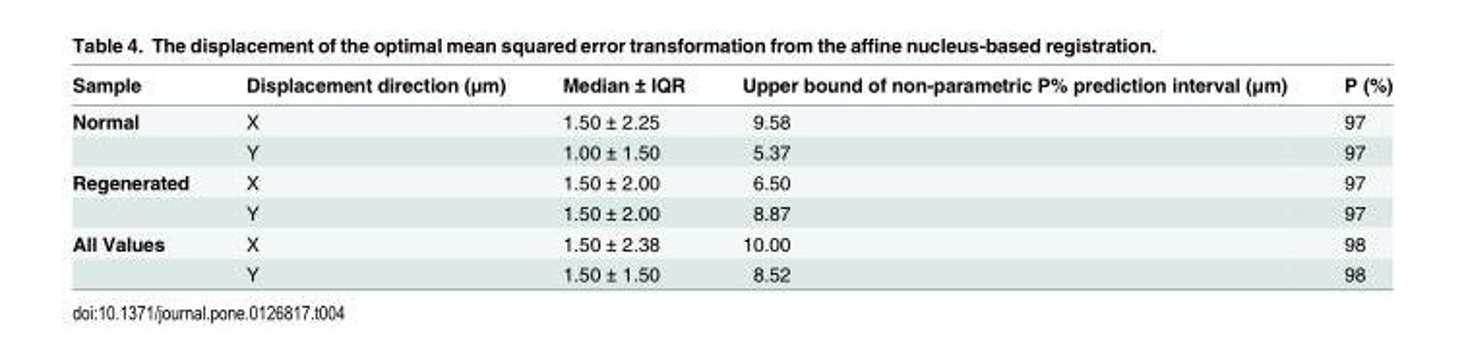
<table><thead><tr><td>Sample</td><td>Displacement direction (μm)</td><td>Median ± IQR</td><td>Upper bound of non-parametric P% prediction interval (μm)</td><td>P (%)</td></tr></thead><tbody><tr><td rowspan="2">Normal</td><td>X</td><td>1.50 ± 2.25</td><td>9.58</td><td>97</td></tr><tr><td>Y</td><td>1.00 ± 1.50</td><td>5.37</td><td>97</td></tr><tr><td rowspan="2">Regenerated</td><td>X</td><td>1.50 ± 2.00</td><td>6.50</td><td>97</td></tr><tr><td>Y</td><td>1.50 ± 2.00</td><td>8.87</td><td>97</td></tr><tr><td rowspan="2">All Values</td><td>X</td><td>1.50 ± 2.38</td><td>10.00</td><td>98</td></tr><tr><td>Y</td><td>1.50 ± 1.50</td><td>8.52</td><td>98</td></tr></tbody></table>